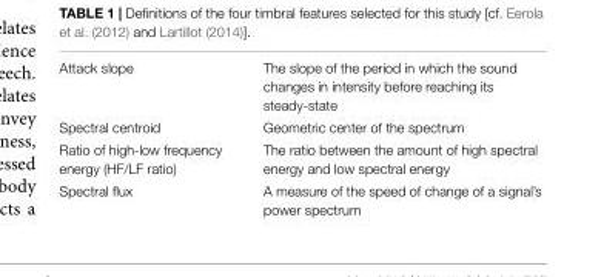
<table><tbody><tr><td>Attack slope</td><td>The slope of the period in which the sound changes in intensity before reaching its steady-state</td></tr><tr><td>Spectral centroid</td><td>Geometric center of the spectrum</td></tr><tr><td>Ratio of high-low frequency energy (HF/LF ratio)</td><td>The ratio between the amount of high spectral energy and low spectral energy</td></tr><tr><td>Spectral flux</td><td>A measure of the speed of change of a signal’s power spectrum</td></tr></tbody></table>